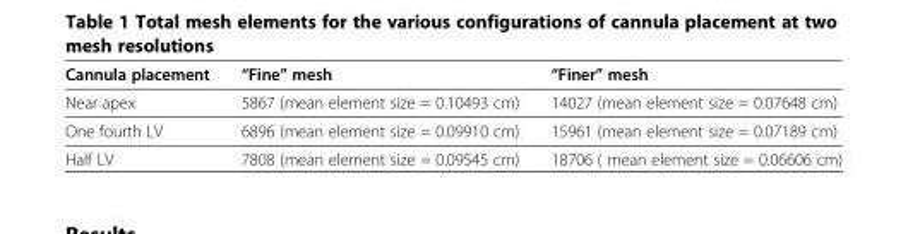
<table><thead><tr><td>Cannula placement</td><td>“Fine” mesh</td><td>“Finer” mesh</td></tr></thead><tbody><tr><td>Near apex</td><td>5867 (mean element size = 0.10493 cm)</td><td>14027 (mean element size = 0.07648 cm)</td></tr><tr><td>One fourth LV</td><td>6896 (mean element size = 0.09910 cm)</td><td>15961 (mean element size = 0.07189 cm)</td></tr><tr><td>Half LV</td><td>7808 (mean element size = 0.09545 cm)</td><td>18706 ( mean element size = 0.06606 cm)</td></tr></tbody></table>